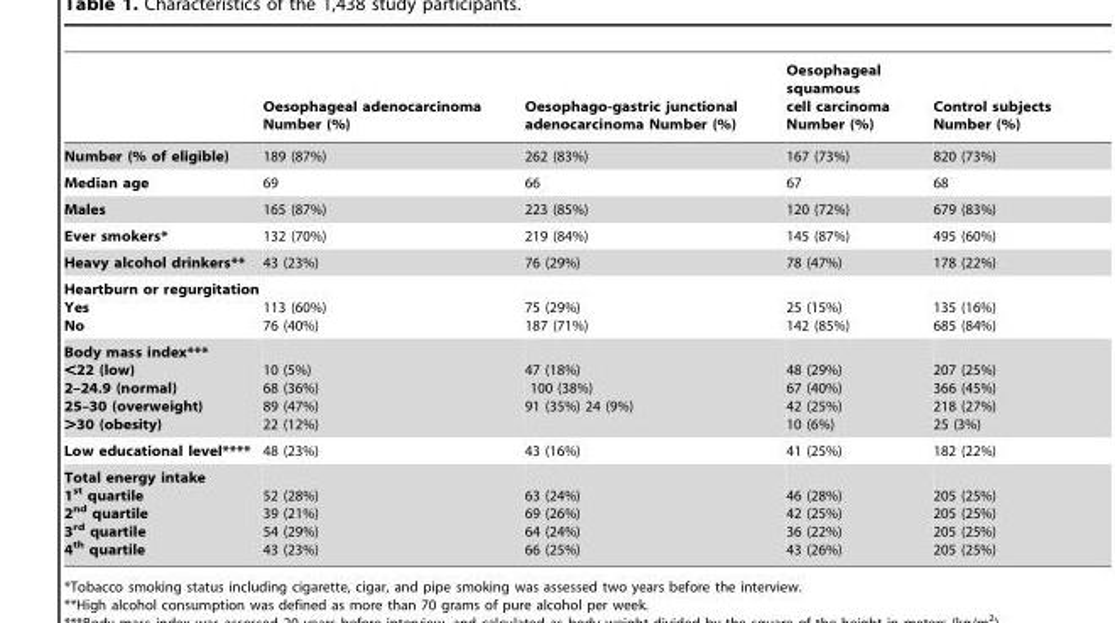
<table><thead><tr><td></td><td>Oesophageal adenocarcinoma Number (%)</td><td>Oesophago-gastric junctional adenocarcinoma Number (%)</td><td>Oesophageal squamous cell carcinoma Number (%)</td><td>Control subjects Number (%)</td></tr></thead><tbody><tr><td>Number (% of eligible)</td><td>189 (87%)</td><td>262 (83%)</td><td>167 (73%)</td><td>820 (73%)</td></tr><tr><td>Median age</td><td>69</td><td>66</td><td>67</td><td>68</td></tr><tr><td>Males</td><td>165 (87%)</td><td>223 (85%)</td><td>120 (72%)</td><td>679 (83%)</td></tr><tr><td>Ever smokers*</td><td>132 (70%)</td><td>219 (84%)</td><td>145 (87%)</td><td>495 (60%)</td></tr><tr><td>Heavy alcohol drinkers**</td><td>43 (23%)</td><td>76 (29%)</td><td>78 (47%)</td><td>178 (22%)</td></tr><tr><td>Heartburn or regurgitation Yes No</td><td>113 (60%) 76 (40%)</td><td>75 (29%) 187 (71%)</td><td>25 (15%) 142 (85%)</td><td>135 (16%) 685 (84%)</td></tr><tr><td>Body mass index*** &lt;22 (low) 2–24.9 (normal) 25–30 (overweight) &gt;30 (obesity)</td><td>10 (5%) 68 (36%) 89 (47%) 22 (12%)</td><td>47 (18%) 100 (38%) 91 (35%) 24 (9%)</td><td>48 (29%) 67 (40%) 42 (25%) 10 (6%)</td><td>207 (25%) 366 (45%) 218 (27%) 25 (3%)</td></tr><tr><td>Low educational level****</td><td>48 (23%)</td><td>43 (16%)</td><td>41 (25%)</td><td>182 (22%)</td></tr><tr><td>Total energy intake 1<sup>st</sup> quartile 2<sup>nd</sup> quartile 3<sup>rd</sup> quartile 4<sup>th</sup> quartile</td><td>52 (28%) 39 (21%) 54 (29%) 43 (23%)</td><td>63 (24%) 69 (26%) 64 (24%) 66 (25%)</td><td>46 (28%) 42 (25%) 36 (22%) 43 (26%)</td><td>205 (25%) 205 (25%) 205 (25%) 205 (25%)</td></tr></tbody></table>